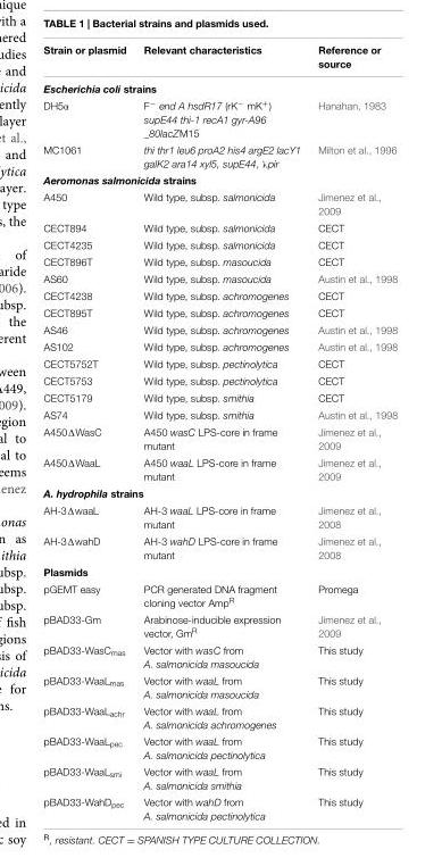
<table><thead><tr><td>Strain or plasmid</td><td>Relevant characteristics</td><td>Reference or source</td></tr></thead><tbody><tr><td colspan="3">Escherichia coli strains</td></tr><tr><td>DH5α</td><td>F<sup>−</sup> end A hsdR17 (rK<sup>−</sup> mK<sup>+</sup>) supE44 thi-1 recA1 gyr-A96 _80lacZM15</td><td>Hanahan, 1983</td></tr><tr><td>MC1061</td><td>thi thr1 leu6 proA2 his4 argE2 lacY1 galK2 ara14 xyl5, supE44, λpir</td><td>Milton et al., 1996</td></tr><tr><td colspan="3">Aeromonas salmonicida strains</td></tr><tr><td>A450</td><td>Wild type, subsp. salmonicida</td><td>Jimenez et al., 2009</td></tr><tr><td>CECT894</td><td>Wild type, subsp. salmonicida</td><td>CECT</td></tr><tr><td>CECT4235</td><td>Wild type, subsp. salmonicida</td><td>CECT</td></tr><tr><td>CECT896T</td><td>Wild type, subsp. masoucida</td><td>CECT</td></tr><tr><td>AS60</td><td>Wild type, subsp. masoucida</td><td>Austin et al., 1998</td></tr><tr><td>CECT4238</td><td>Wild type, subsp. achromogenes</td><td>CECT</td></tr><tr><td>CECT895T</td><td>Wild type, subsp. achromogenes</td><td>CECT</td></tr><tr><td>AS46</td><td>Wild type, subsp. achromogenes</td><td>Austin et al., 1998</td></tr><tr><td>AS102</td><td>Wild type, subsp. achromogenes</td><td>Austin et al., 1998</td></tr><tr><td>CECT5752T</td><td>Wild type, subsp. pectinolytica</td><td>CECT</td></tr><tr><td>CECT5753</td><td>Wild type, subsp. pectinolytica</td><td>CECT</td></tr><tr><td>CECT5179</td><td>Wild type, subsp. smithia</td><td>CECT</td></tr><tr><td>AS74</td><td>Wild type, subsp. smithia</td><td>Austin et al., 1998</td></tr><tr><td>A450ΔWasC</td><td>A450 wasC LPS-core in frame mutant</td><td>Jimenez et al., 2009</td></tr><tr><td>A450ΔWaaL</td><td>A450 waaL LPS-core in frame mutant</td><td>Jimenez et al., 2009</td></tr><tr><td colspan="3">A. hydrophila strains</td></tr><tr><td>AH-3ΔwaaL</td><td>AH-3 waaL LPS-core in frame mutant</td><td>Jimenez et al., 2008</td></tr><tr><td>AH-3ΔwahD</td><td>AH-3 wahD LPS-core in frame mutant</td><td>Jimenez et al., 2008</td></tr><tr><td colspan="3">Plasmids</td></tr><tr><td>pGEMT easy</td><td>PCR generated DNA fragment cloning vector Amp<sup>R</sup></td><td>Promega</td></tr><tr><td>pBAD33-Gm</td><td>Arabinose-inducible expression vector, Gm<sup>R</sup></td><td>Jimenez et al., 2009</td></tr><tr><td>pBAD33-WasC<sub>mas</sub></td><td>Vector with wasC from A. salmonicida masoucida</td><td>This study</td></tr><tr><td>pBAD33-WaaL<sub>mas</sub></td><td>Vector with waaL from A. salmonicida masoucida</td><td>This study</td></tr><tr><td>pBAD33-WaaL<sub>achr</sub></td><td>Vector with waaL from A. salmonicida achromogenes</td><td>This study</td></tr><tr><td>pBAD33-WaaL<sub>pec</sub></td><td>Vector with waaL from A. salmonicida pectinolytica</td><td>This study</td></tr><tr><td>pBAD33-WaaL<sub>smi</sub></td><td>Vector with waaL from A. salmonicida smithia</td><td>This study</td></tr><tr><td>pBAD33-WahD<sub>pec</sub></td><td>Vector with wahD from A. salmonicida pectinolytica</td><td>This study</td></tr></tbody></table>